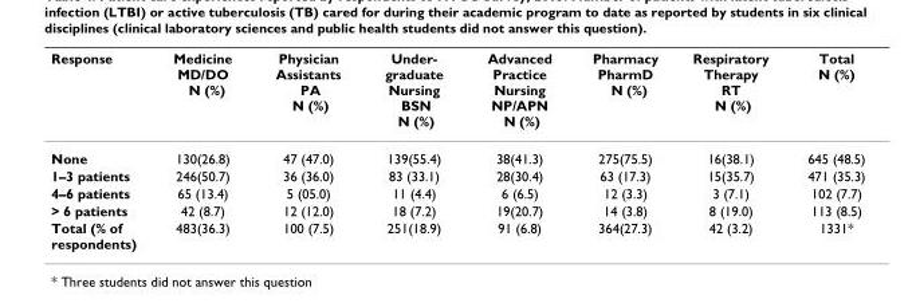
<table><thead><tr><td>Response</td><td>Medicine MD/DO N (%)</td><td>Physician Assistants PA N (%)</td><td>Under- graduate Nursing BSN N (%)</td><td>Advanced Practice Nursing NP/APN N (%)</td><td>Pharmacy PharmD N (%)</td><td>Respiratory Therapy RT N (%)</td><td>Total N (%)</td></tr></thead><tbody><tr><td>None</td><td>130(26.8)</td><td>47 (47.0)</td><td>139(55.4)</td><td>38(41.3)</td><td>275(75.5)</td><td>16(38.1)</td><td>645 (48.5)</td></tr><tr><td>1–3 patients</td><td>246(50.7)</td><td>36 (36.0)</td><td>83 (33.1)</td><td>28(30.4)</td><td>63 (17.3)</td><td>15(35.7)</td><td>471 (35.3)</td></tr><tr><td>4–6 patients</td><td>65 (13.4)</td><td>5 (05.0)</td><td>11 (4.4)</td><td>6 (6.5)</td><td>12 (3.3)</td><td>3 (7.1)</td><td>102 (7.7)</td></tr><tr><td>&gt; 6 patients</td><td>42 (8.7)</td><td>12 (12.0)</td><td>18 (7.2)</td><td>19(20.7)</td><td>14 (3.8)</td><td>8 (19.0)</td><td>113 (8.5)</td></tr><tr><td>Total (% of respondents)</td><td>483(36.3)</td><td>100 (7.5)</td><td>251(18.9)</td><td>91 (6.8)</td><td>364(27.3)</td><td>42 (3.2)</td><td>1331*</td></tr></tbody></table>